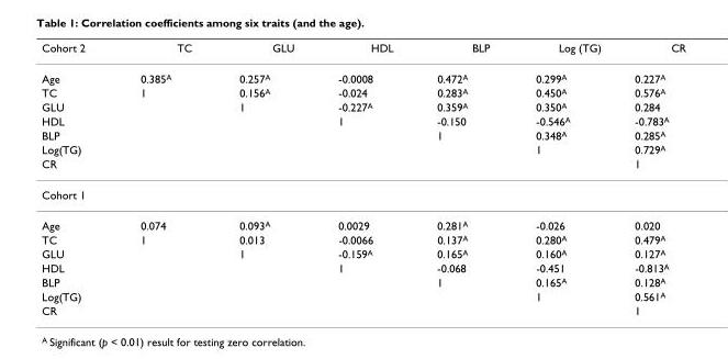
<table><thead><tr><td>Cohort 2</td><td>TC</td><td>GLU</td><td>HDL</td><td>BLP</td><td>Log (TG)</td><td>CR</td></tr></thead><tbody><tr><td>Age</td><td>0.385A</td><td>0.257A</td><td>-0.0008</td><td>0.472A</td><td>0.299A</td><td>0.227A</td></tr><tr><td>TC</td><td>1</td><td>0.156A</td><td>-0.024</td><td>0.283A</td><td>0.450A</td><td>0.576A</td></tr><tr><td>GLU</td><td></td><td>1</td><td>-0.227A</td><td>0.359A</td><td>0.350A</td><td>0.284</td></tr><tr><td>HDL</td><td></td><td></td><td>1</td><td>-0.150</td><td>-0.546A</td><td>-0.783A</td></tr><tr><td>BLP</td><td></td><td></td><td></td><td>1</td><td>0.348A</td><td>0.285A</td></tr><tr><td>Log(TG)</td><td></td><td></td><td></td><td></td><td>1</td><td>0.729A</td></tr><tr><td>CR</td><td></td><td></td><td></td><td></td><td></td><td>1</td></tr><tr><td colspan="7">Cohort 1</td></tr><tr><td>Age</td><td>0.074</td><td>0.093A</td><td>0.0029</td><td>0.281A</td><td>-0.026</td><td>0.020</td></tr><tr><td>TC</td><td>1</td><td>0.013</td><td>-0.0066</td><td>0.137A</td><td>0.280A</td><td>0.479A</td></tr><tr><td>GLU</td><td></td><td>1</td><td>-0.159A</td><td>0.165A</td><td>0.160A</td><td>0.127A</td></tr><tr><td>HDL</td><td></td><td></td><td>1</td><td>-0.068</td><td>-0.451</td><td>-0.813A</td></tr><tr><td>BLP</td><td></td><td></td><td></td><td>1</td><td>0.165A</td><td>0.128A</td></tr><tr><td>Log(TG)</td><td></td><td></td><td></td><td></td><td>1</td><td>0.561A</td></tr><tr><td>CR</td><td></td><td></td><td></td><td></td><td></td><td>1</td></tr></tbody></table>